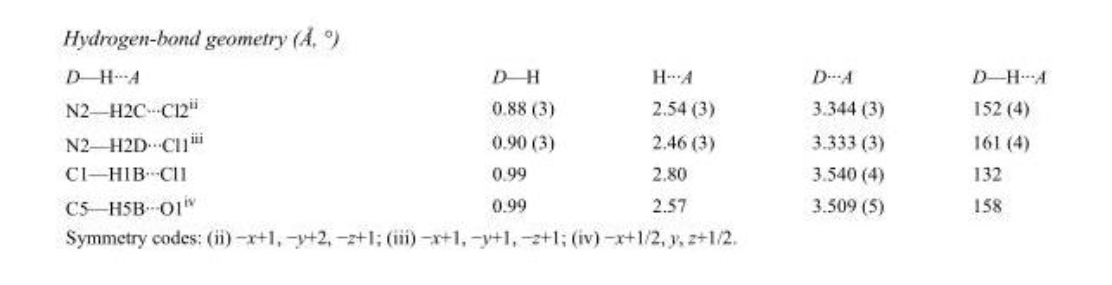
<table><tbody><tr><td>D—H···A</td><td>D—H</td><td>H···A</td><td>D···A</td><td>D—H···A</td></tr><tr><td>N2—H2C···Cl2<sup>ii</sup></td><td>0.88 (3)</td><td>2.54 (3)</td><td>3.344 (3)</td><td>152 (4)</td></tr><tr><td>N2—H2D···Cl1<sup>iii</sup></td><td>0.90 (3)</td><td>2.46 (3)</td><td>3.333 (3)</td><td>161 (4)</td></tr><tr><td>C1—H1B···Cl1</td><td>0.99</td><td>2.80</td><td>3.540 (4)</td><td>132</td></tr><tr><td>C5—H5B···O1<sup>iv</sup></td><td>0.99</td><td>2.57</td><td>3.509 (5)</td><td>158</td></tr></tbody></table>